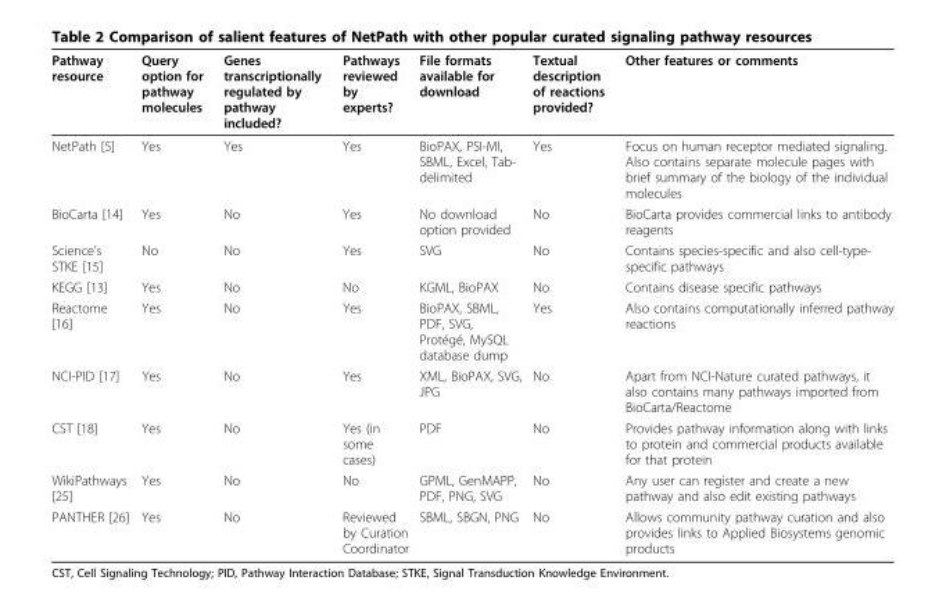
<table><thead><tr><td>Pathway resource</td><td>Query option for pathway molecules</td><td>Genes transcriptionally regulated by pathway included?</td><td>Pathways reviewed by experts?</td><td>File formats available for download</td><td>Textual description of reactions provided?</td><td>Other features or comments</td></tr></thead><tbody><tr><td>NetPath [5]</td><td>Yes</td><td>Yes</td><td>Yes</td><td>BioPAX, PSI-MI, SBML, Excel, Tab- delimited</td><td>Yes</td><td>Focus on human receptor mediated signaling. Also contains separate molecule pages with brief summary of the biology of the individual molecules</td></tr><tr><td>BioCarta [14]</td><td>Yes</td><td>No</td><td>Yes</td><td>No download option provided</td><td>No</td><td>BioCarta provides commercial links to antibody reagents</td></tr><tr><td>Science’s STKE [15]</td><td>No</td><td>No</td><td>Yes</td><td>SVG</td><td>No</td><td>Contains species-specific and also cell-type- specific pathways</td></tr><tr><td>KEGG [13]</td><td>Yes</td><td>No</td><td>No</td><td>KGML, BioPAX</td><td>No</td><td>Contains disease specific pathways</td></tr><tr><td>Reactome [16]</td><td>Yes</td><td>No</td><td>Yes</td><td>BioPAX, SBML, PDF, SVG, Protégé, MySQL database dump</td><td>Yes</td><td>Also contains computationally inferred pathway reactions</td></tr><tr><td>NCI-PID [17]</td><td>Yes</td><td>No</td><td>Yes</td><td>XML, BioPAX, SVG, JPG</td><td>No</td><td>Apart from NCI-Nature curated pathways, it also contains many pathways imported from BioCarta/Reactome</td></tr><tr><td>CST [18]</td><td>Yes</td><td>No</td><td>Yes (in some cases)</td><td>PDF</td><td>No</td><td>Provides pathway information along with links to protein and commercial products available for that protein</td></tr><tr><td>WikiPathways [25]</td><td>Yes</td><td>No</td><td>No</td><td>GPML, GenMAPP, PDF, PNG, SVG</td><td>No</td><td>Any user can register and create a new pathway and also edit existing pathways</td></tr><tr><td>PANTHER [26]</td><td>Yes</td><td>No</td><td>Reviewed by Curation Coordinator</td><td>SBML, SBGN, PNG</td><td>No</td><td>Allows community pathway curation and also provides links to Applied Biosystems genomic products</td></tr></tbody></table>